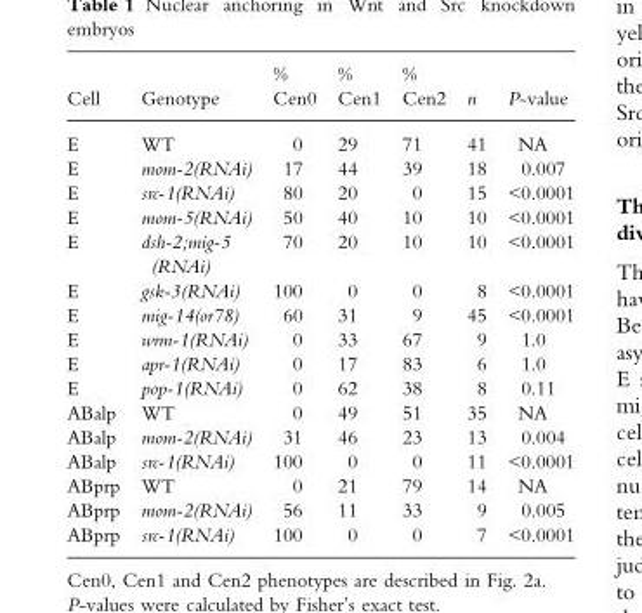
<table><thead><tr><td>Cell</td><td>Genotype</td><td>% Cen0</td><td>% Cen1</td><td>% Cen2</td><td>n</td><td>P-value</td></tr></thead><tbody><tr><td>E</td><td>WT</td><td>0</td><td>29</td><td>71</td><td>41</td><td>NA</td></tr><tr><td>E</td><td>mom-2(RNAi)</td><td>17</td><td>44</td><td>39</td><td>18</td><td>0.007</td></tr><tr><td>E</td><td>src-1(RNAi)</td><td>80</td><td>20</td><td>0</td><td>15</td><td>&lt;0.0001</td></tr><tr><td>E</td><td>mom-5(RNAi)</td><td>50</td><td>40</td><td>10</td><td>10</td><td>&lt;0.0001</td></tr><tr><td>E</td><td>dsh-2;mig-5 (RNAi)</td><td>70</td><td>20</td><td>10</td><td>10</td><td>&lt;0.0001</td></tr><tr><td>E</td><td>gsk-3(RNAi)</td><td>100</td><td>0</td><td>0</td><td>8</td><td>&lt;0.0001</td></tr><tr><td>E</td><td>mig-14(or78)</td><td>60</td><td>31</td><td>9</td><td>45</td><td>&lt;0.0001</td></tr><tr><td>E</td><td>wrm-1(RNAi)</td><td>0</td><td>33</td><td>67</td><td>9</td><td>1.0</td></tr><tr><td>E</td><td>apr-1(RNAi)</td><td>0</td><td>17</td><td>83</td><td>6</td><td>1.0</td></tr><tr><td>E</td><td>pop-1(RNAi)</td><td>0</td><td>62</td><td>38</td><td>8</td><td>0.11</td></tr><tr><td>ABalp</td><td>WT</td><td>0</td><td>49</td><td>51</td><td>35</td><td>NA</td></tr><tr><td>ABalp</td><td>mom-2(RNAi)</td><td>31</td><td>46</td><td>23</td><td>13</td><td>0.004</td></tr><tr><td>ABalp</td><td>src-1(RNAi)</td><td>100</td><td>0</td><td>0</td><td>11</td><td>&lt;0.0001</td></tr><tr><td>ABprp</td><td>WT</td><td>0</td><td>21</td><td>79</td><td>14</td><td>NA</td></tr><tr><td>ABprp</td><td>mom-2(RNAi)</td><td>56</td><td>11</td><td>33</td><td>9</td><td>0.005</td></tr><tr><td>ABprp</td><td>src-1(RNAi)</td><td>100</td><td>0</td><td>0</td><td>7</td><td>&lt;0.0001</td></tr></tbody></table>